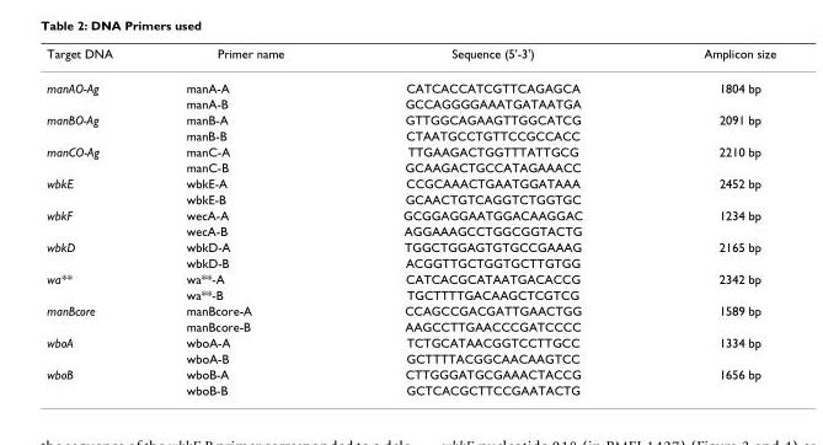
<table><thead><tr><td>Target DNA</td><td>Primer name</td><td>Sequence (5&#x27;-3&#x27;)</td><td>Amplicon size</td></tr></thead><tbody><tr><td rowspan="2">manAO-Ag</td><td>manA-A</td><td>CATCACCATCGTTCAGAGCA</td><td>1804 bp</td></tr><tr><td>manA-B</td><td>GCCAGGGGAAATGATAATGA</td><td></td></tr><tr><td rowspan="2">manBO-Ag</td><td>manB-A</td><td>GTTGGCAGAAGTTGGCATCG</td><td>2091 bp</td></tr><tr><td>manB-B</td><td>CTAATGCCTGTTCCGCCACC</td><td></td></tr><tr><td rowspan="2">manCO-Ag</td><td>manC-A</td><td>TTGAAGACTGGTTTATTGCG</td><td>2210 bp</td></tr><tr><td>manC-B</td><td>GCAAGACTGCCATAGAAACC</td><td></td></tr><tr><td rowspan="2">wbkE</td><td>wbkE-A</td><td>CCGCAAACTGAATGGATAAA</td><td>2452 bp</td></tr><tr><td>wbkE-B</td><td>GCAACTGTCAGGTCTGGTGC</td><td></td></tr><tr><td rowspan="2">wbkF</td><td>wecA-A</td><td>GCGGAGGAATGGACAAGGAC</td><td>1234 bp</td></tr><tr><td>wecA-B</td><td>AGGAAAGCCTGGCGGTACTG</td><td></td></tr><tr><td rowspan="2">wbkD</td><td>wbkD-A</td><td>TGGCTGGAGTGTGCCGAAAG</td><td>2165 bp</td></tr><tr><td>wbkD-B</td><td>ACGGTTGCTGGTGCTTGTGG</td><td></td></tr><tr><td rowspan="2">wa**</td><td>wa**-A</td><td>CATCACGCATAATGACACCG</td><td>2342 bp</td></tr><tr><td>wa**-B</td><td>TGCTTTTGACAAGCTCGTCG</td><td></td></tr><tr><td rowspan="2">manBcore</td><td>manBcore-A</td><td>CCAGCCGACGATTGAACTGG</td><td>1589 bp</td></tr><tr><td>manBcore-B</td><td>AAGCCTTGAACCCGATCCCC</td><td></td></tr><tr><td rowspan="2">wboA</td><td>wboA-A</td><td>TCTGCATAACGGTCCTTGCC</td><td>1334 bp</td></tr><tr><td>wboA-B</td><td>GCTTTTACGGCAACAAGTCC</td><td></td></tr><tr><td rowspan="2">wboB</td><td>wboB-A</td><td>CTTGGGATGCGAAACTACCG</td><td>1656 bp</td></tr><tr><td>wboB-B</td><td>GCTCACGCTTCCGAATACTG</td><td></td></tr></tbody></table>